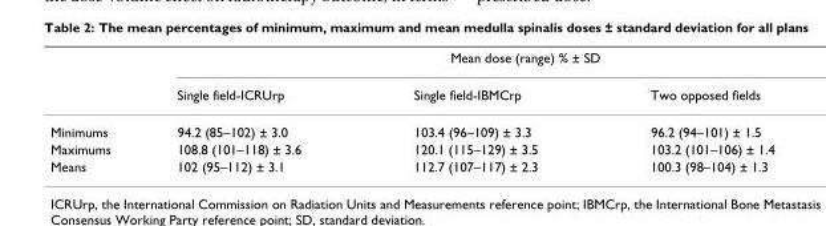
<table><thead><tr><td rowspan="2"></td><td colspan="3">Mean dose (range) % ± SD</td></tr><tr><td>Single field-ICRUrp</td><td>Single field-IBMCrp</td><td>Two opposed fields</td></tr></thead><tbody><tr><td>Minimums</td><td>94.2 (85–102) ± 3.0</td><td>103.4 (96–109) ± 3.3</td><td>96.2 (94–101) ± 1.5</td></tr><tr><td>Maximums</td><td>108.8 (101–118) ± 3.6</td><td>120.1 (115–129) ± 3.5</td><td>103.2 (101–106) ± 1.4</td></tr><tr><td>Means</td><td>102 (95–112) ± 3.1</td><td>112.7 (107–117) ± 2.3</td><td>100.3 (98–104) ± 1.3</td></tr></tbody></table>